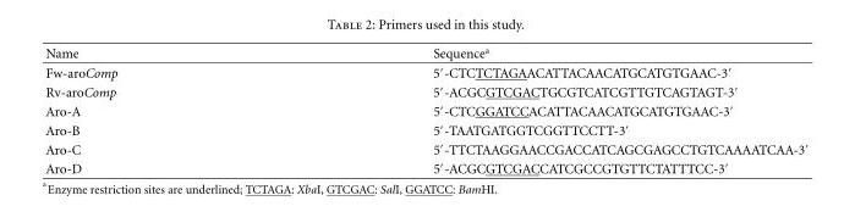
<table><thead><tr><td>Name</td><td>Sequence<sup>a</sup></td></tr></thead><tbody><tr><td>Fw-aroComp</td><td>5<sup>′</sup>-CTCTCTAGAACATTACAACATGCATGTGAAC-3<sup>′</sup></td></tr><tr><td>Rv-aroComp</td><td>5<sup>′</sup>-ACGCGTCGACTGCGTCATCGTTGTCAGTAGT-3<sup>′</sup></td></tr><tr><td>Aro-A</td><td>5<sup>′</sup>-CTCGGATCCACATTACAACATGCATGTGAAC-3<sup>′</sup></td></tr><tr><td>Aro-B</td><td>5<sup>′</sup>-TAATGATGGTCGGTTCCTT-3<sup>′</sup></td></tr><tr><td>Aro-C</td><td>5<sup>′</sup>-TTCTAAGGAACCGACCATCAGCGAGCCTGTCAAAATCAA-3<sup>′</sup></td></tr><tr><td>Aro-D</td><td>5<sup>′</sup>-ACGCGTCGACCATCGCCGTGTTCTATTTCC-3<sup>′</sup></td></tr></tbody></table>